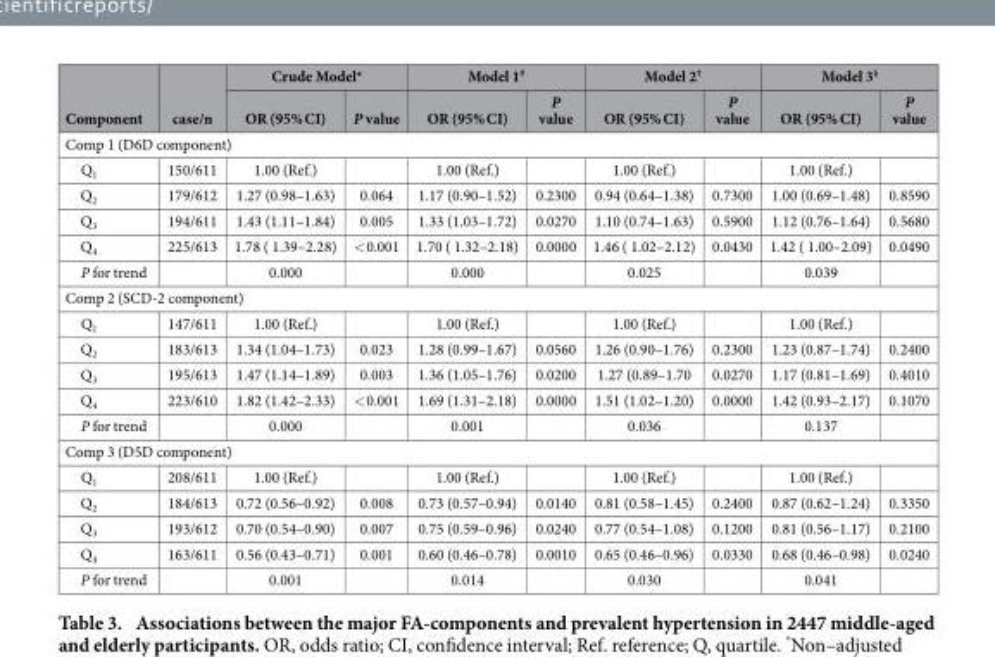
<table><thead><tr><td rowspan="2">Component</td><td rowspan="2">case/n</td><td colspan="2">Crude Model*</td><td colspan="2">Model 1#</td><td colspan="2">Model 2†</td><td colspan="2">Model 3§</td></tr><tr><td>OR (95% CI)</td><td>P value</td><td>OR (95% CI)</td><td>P value</td><td>OR (95% CI)</td><td>P value</td><td>OR (95% CI)</td><td>P value</td></tr></thead><tbody><tr><td colspan="10">Comp 1 (D6D component)</td></tr><tr><td>Q<sub>1</sub></td><td>150/611</td><td>1.00 (Ref.)</td><td></td><td>1.00 (Ref.)</td><td></td><td>1.00 (Ref.)</td><td></td><td>1.00 (Ref.)</td><td></td></tr><tr><td>Q<sub>2</sub></td><td>179/612</td><td>1.27 (0.98–1.63)</td><td>0.064</td><td>1.17 (0.90–1.52)</td><td>0.2300</td><td>0.94 (0.64–1.38)</td><td>0.7300</td><td>1.00 (0.69–1.48)</td><td>0.8590</td></tr><tr><td>Q<sub>3</sub></td><td>194/611</td><td>1.43 (1.11–1.84)</td><td>0.005</td><td>1.33 (1.03–1.72)</td><td>0.0270</td><td>1.10 (0.74–1.63)</td><td>0.5900</td><td>1.12 (0.76–1.64)</td><td>0.5680</td></tr><tr><td>Q<sub>4</sub></td><td>225/613</td><td>1.78 ( 1.39–2.28)</td><td>&lt; 0.001</td><td>1.70 ( 1.32–2.18)</td><td>0.0000</td><td>1.46 ( 1.02–2.12)</td><td>0.0430</td><td>1.42 ( 1.00–2.09)</td><td>0.0490</td></tr><tr><td>P for trend</td><td></td><td>0.000</td><td></td><td>0.000</td><td></td><td>0.025</td><td></td><td>0.039</td><td></td></tr><tr><td colspan="10">Comp 2 (SCD-2 component)</td></tr><tr><td>Q<sub>1</sub></td><td>147/611</td><td>1.00 (Ref.)</td><td></td><td>1.00 (Ref.)</td><td></td><td>1.00 (Ref.)</td><td></td><td>1.00 (Ref.)</td><td></td></tr><tr><td>Q<sub>2</sub></td><td>183/613</td><td>1.34 (1.04–1.73)</td><td>0.023</td><td>1.28 (0.99–1.67)</td><td>0.0560</td><td>1.26 (0.90–1.76)</td><td>0.2300</td><td>1.23 (0.87–1.74)</td><td>0.2400</td></tr><tr><td>Q<sub>3</sub></td><td>195/613</td><td>1.47 (1.14–1.89)</td><td>0.003</td><td>1.36 (1.05–1.76)</td><td>0.0200</td><td>1.27 (0.89–1.70</td><td>0.0270</td><td>1.17 (0.81–1.69)</td><td>0.4010</td></tr><tr><td>Q<sub>4</sub></td><td>223/610</td><td>1.82 (1.42–2.33)</td><td>&lt; 0.001</td><td>1.69 (1.31–2.18)</td><td>0.0000</td><td>1.51 (1.02–1.20)</td><td>0.0000</td><td>1.42 (0.93–2.17)</td><td>0.1070</td></tr><tr><td>P for trend</td><td></td><td>0.000</td><td></td><td>0.001</td><td></td><td>0.036</td><td></td><td>0.137</td><td></td></tr><tr><td colspan="10">Comp 3 (D5D component)</td></tr><tr><td>Q<sub>1</sub></td><td>208/611</td><td>1.00 (Ref.)</td><td></td><td>1.00 (Ref.)</td><td></td><td>1.00 (Ref.)</td><td></td><td>1.00 (Ref.)</td><td></td></tr><tr><td>Q<sub>2</sub></td><td>184/613</td><td>0.72 (0.56–0.92)</td><td>0.008</td><td>0.73 (0.57–0.94)</td><td>0.0140</td><td>0.81 (0.58–1.45)</td><td>0.2400</td><td>0.87 (0.62–1.24)</td><td>0.3350</td></tr><tr><td>Q<sub>3</sub></td><td>193/612</td><td>0.70 (0.54–0.90)</td><td>0.007</td><td>0.75 (0.59–0.96)</td><td>0.0240</td><td>0.77 (0.54–1.08)</td><td>0.1200</td><td>0.81 (0.56–1.17)</td><td>0.2100</td></tr><tr><td>Q<sub>4</sub></td><td>163/611</td><td>0.56 (0.43–0.71)</td><td>0.001</td><td>0.60 (0.46–0.78)</td><td>0.0010</td><td>0.65 (0.46–0.96)</td><td>0.0330</td><td>0.68 (0.46–0.98)</td><td>0.0240</td></tr><tr><td>P for trend</td><td></td><td>0.001</td><td></td><td>0.014</td><td></td><td>0.030</td><td></td><td>0.041</td><td></td></tr></tbody></table>